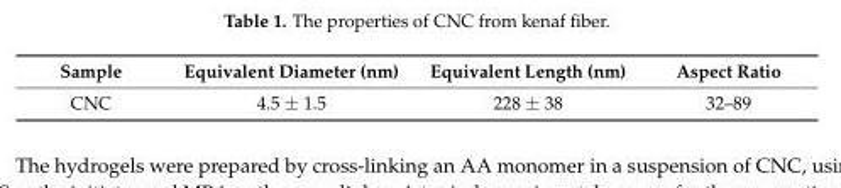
<table><thead><tr><td>Sample</td><td>Equivalent Diameter (nm)</td><td>Equivalent Length (nm)</td><td>Aspect Ratio</td></tr></thead><tbody><tr><td>CNC</td><td>4.5 ± 1.5</td><td>228 ± 38</td><td>32–89</td></tr></tbody></table>